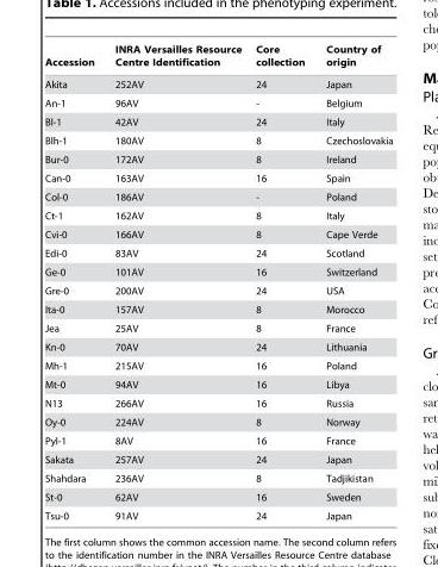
<table><thead><tr><td>Accession</td><td>INRA Versailles Resource Centre Identification</td><td>Core collection</td><td>Country of origin</td></tr></thead><tbody><tr><td>Akita</td><td>252AV</td><td>24</td><td>Japan</td></tr><tr><td>An-1</td><td>96AV</td><td>-</td><td>Belgium</td></tr><tr><td>Bl-1</td><td>42AV</td><td>24</td><td>Italy</td></tr><tr><td>Blh-1</td><td>180AV</td><td>8</td><td>Czechoslovakia</td></tr><tr><td>Bur-0</td><td>172AV</td><td>8</td><td>Ireland</td></tr><tr><td>Can-0</td><td>163AV</td><td>16</td><td>Spain</td></tr><tr><td>Col-0</td><td>186AV</td><td>-</td><td>Poland</td></tr><tr><td>Ct-1</td><td>162AV</td><td>8</td><td>Italy</td></tr><tr><td>Cvi-0</td><td>166AV</td><td>8</td><td>Cape Verde</td></tr><tr><td>Edi-0</td><td>83AV</td><td>24</td><td>Scotland</td></tr><tr><td>Ge-0</td><td>101AV</td><td>16</td><td>Switzerland</td></tr><tr><td>Gre-0</td><td>200AV</td><td>24</td><td>USA</td></tr><tr><td>Ita-0</td><td>157AV</td><td>8</td><td>Morocco</td></tr><tr><td>Jea</td><td>25AV</td><td>8</td><td>France</td></tr><tr><td>Kn-0</td><td>70AV</td><td>24</td><td>Lithuania</td></tr><tr><td>Mh-1</td><td>215AV</td><td>16</td><td>Poland</td></tr><tr><td>Mt-0</td><td>94AV</td><td>16</td><td>Libya</td></tr><tr><td>N13</td><td>266AV</td><td>16</td><td>Russia</td></tr><tr><td>Oy-0</td><td>224AV</td><td>8</td><td>Norway</td></tr><tr><td>Pyl-1</td><td>8AV</td><td>16</td><td>France</td></tr><tr><td>Sakata</td><td>257AV</td><td>24</td><td>Japan</td></tr><tr><td>Shahdara</td><td>236AV</td><td>8</td><td>Tadjikistan</td></tr><tr><td>St-0</td><td>62AV</td><td>16</td><td>Sweden</td></tr><tr><td>Tsu-0</td><td>91AV</td><td>24</td><td>Japan</td></tr></tbody></table>